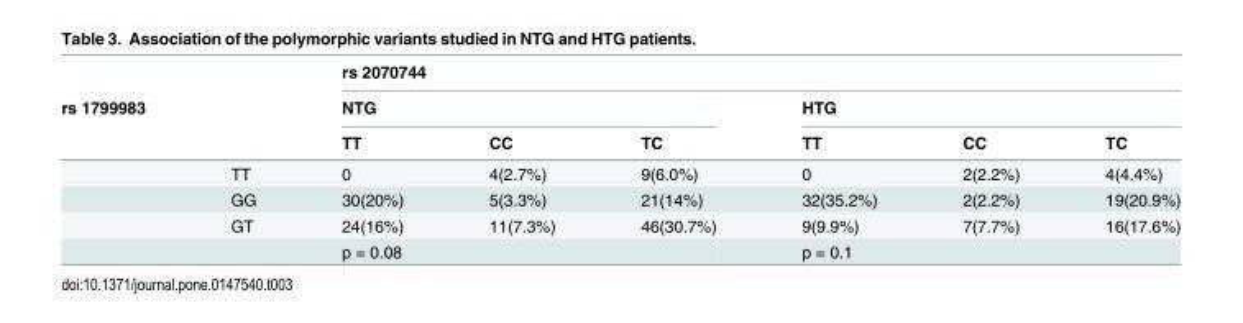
<table><thead><tr><td rowspan="3">rs 1799983</td><td rowspan="3"></td><td colspan="6">rs 2070744</td></tr><tr><td colspan="3">NTG</td><td colspan="3">HTG</td></tr><tr><td>TT</td><td>CC</td><td>TC</td><td>TT</td><td>CC</td><td>TC</td></tr></thead><tbody><tr><td></td><td>TT</td><td>0</td><td>4(2.7%)</td><td>9(6.0%)</td><td>0</td><td>2(2.2%)</td><td>4(4.4%)</td></tr><tr><td></td><td>GG</td><td>30(20%)</td><td>5(3.3%)</td><td>21(14%)</td><td>32(35.2%)</td><td>2(2.2%)</td><td>19(20.9%)</td></tr><tr><td></td><td>GT</td><td>24(16%)</td><td>11(7.3%)</td><td>46(30.7%)</td><td>9(9.9%)</td><td>7(7.7%)</td><td>16(17.6%)</td></tr><tr><td></td><td></td><td colspan="3">p = 0.08</td><td colspan="3">p = 0.1</td></tr></tbody></table>